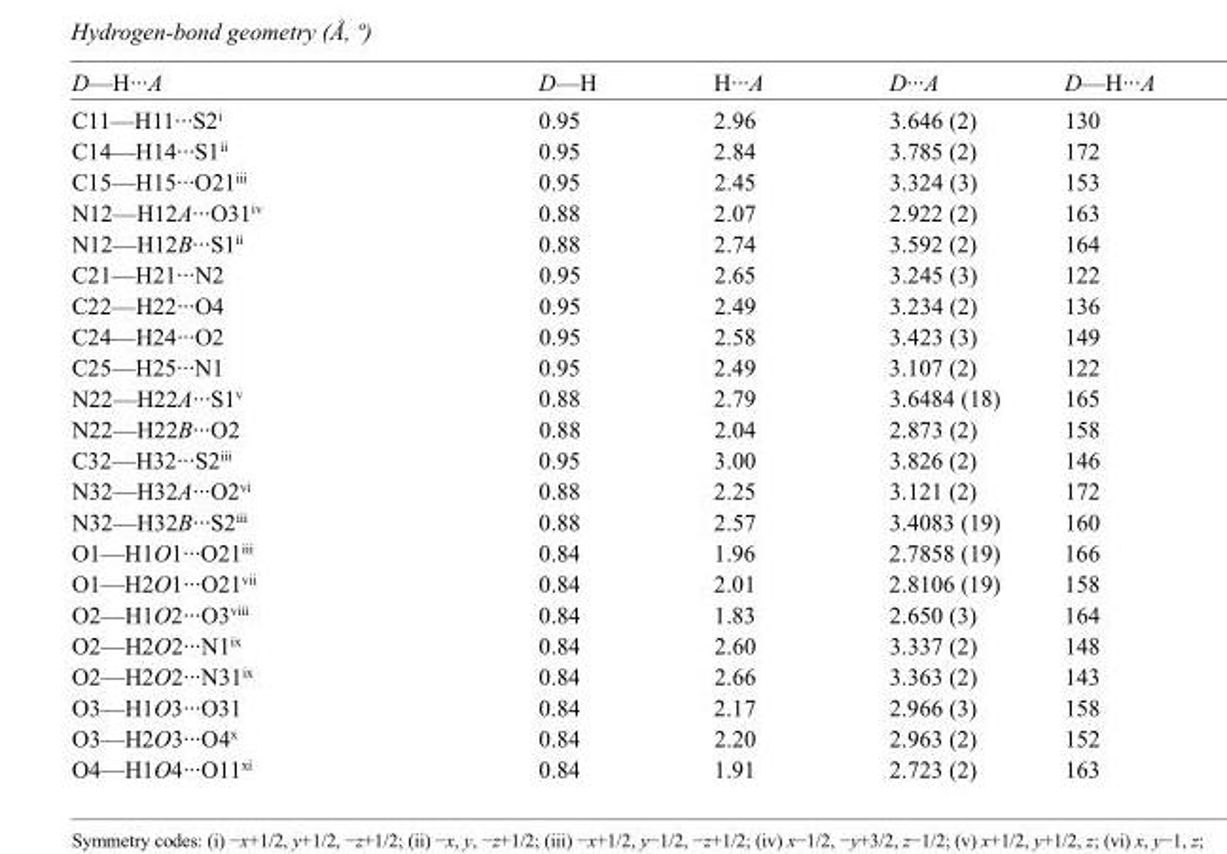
<table><tbody><tr><td>D—H···A</td><td>D—H</td><td>H···A</td><td>D···A</td><td>D—H···A</td></tr><tr><td>C11—H11···S2<sup>i</sup></td><td>0.95</td><td>2.96</td><td>3.646 (2)</td><td>130</td></tr><tr><td>C14—H14···S1<sup>ii</sup></td><td>0.95</td><td>2.84</td><td>3.785 (2)</td><td>172</td></tr><tr><td>C15—H15···O21<sup>iii</sup></td><td>0.95</td><td>2.45</td><td>3.324 (3)</td><td>153</td></tr><tr><td>N12—H12A···O31<sup>iv</sup></td><td>0.88</td><td>2.07</td><td>2.922 (2)</td><td>163</td></tr><tr><td>N12—H12B···S1<sup>ii</sup></td><td>0.88</td><td>2.74</td><td>3.592 (2)</td><td>164</td></tr><tr><td>C21—H21···N2</td><td>0.95</td><td>2.65</td><td>3.245 (3)</td><td>122</td></tr><tr><td>C22—H22···O4</td><td>0.95</td><td>2.49</td><td>3.234 (2)</td><td>136</td></tr><tr><td>C24—H24···O2</td><td>0.95</td><td>2.58</td><td>3.423 (3)</td><td>149</td></tr><tr><td>C25—H25···N1</td><td>0.95</td><td>2.49</td><td>3.107 (2)</td><td>122</td></tr><tr><td>N22—H22A···S1<sup>v</sup></td><td>0.88</td><td>2.79</td><td>3.6484 (18)</td><td>165</td></tr><tr><td>N22—H22B···O2</td><td>0.88</td><td>2.04</td><td>2.873 (2)</td><td>158</td></tr><tr><td>C32—H32···S2<sup>iii</sup></td><td>0.95</td><td>3.00</td><td>3.826 (2)</td><td>146</td></tr><tr><td>N32—H32A···O2<sup>vi</sup></td><td>0.88</td><td>2.25</td><td>3.121 (2)</td><td>172</td></tr><tr><td>N32—H32B···S2<sup>iii</sup></td><td>0.88</td><td>2.57</td><td>3.4083 (19)</td><td>160</td></tr><tr><td>O1—H1O1···O21<sup>iii</sup></td><td>0.84</td><td>1.96</td><td>2.7858 (19)</td><td>166</td></tr><tr><td>O1—H2O1···O21<sup>vii</sup></td><td>0.84</td><td>2.01</td><td>2.8106 (19)</td><td>158</td></tr><tr><td>O2—H1O2···O3<sup>viii</sup></td><td>0.84</td><td>1.83</td><td>2.650 (3)</td><td>164</td></tr><tr><td>O2—H2O2···N1<sup>ix</sup></td><td>0.84</td><td>2.60</td><td>3.337 (2)</td><td>148</td></tr><tr><td>O2—H2O2···N31<sup>ix</sup></td><td>0.84</td><td>2.66</td><td>3.363 (2)</td><td>143</td></tr><tr><td>O3—H1O3···O31</td><td>0.84</td><td>2.17</td><td>2.966 (3)</td><td>158</td></tr><tr><td>O3—H2O3···O4<sup>x</sup></td><td>0.84</td><td>2.20</td><td>2.963 (2)</td><td>152</td></tr><tr><td>O4—H1O4···O11<sup>xi</sup></td><td>0.84</td><td>1.91</td><td>2.723 (2)</td><td>163</td></tr></tbody></table>